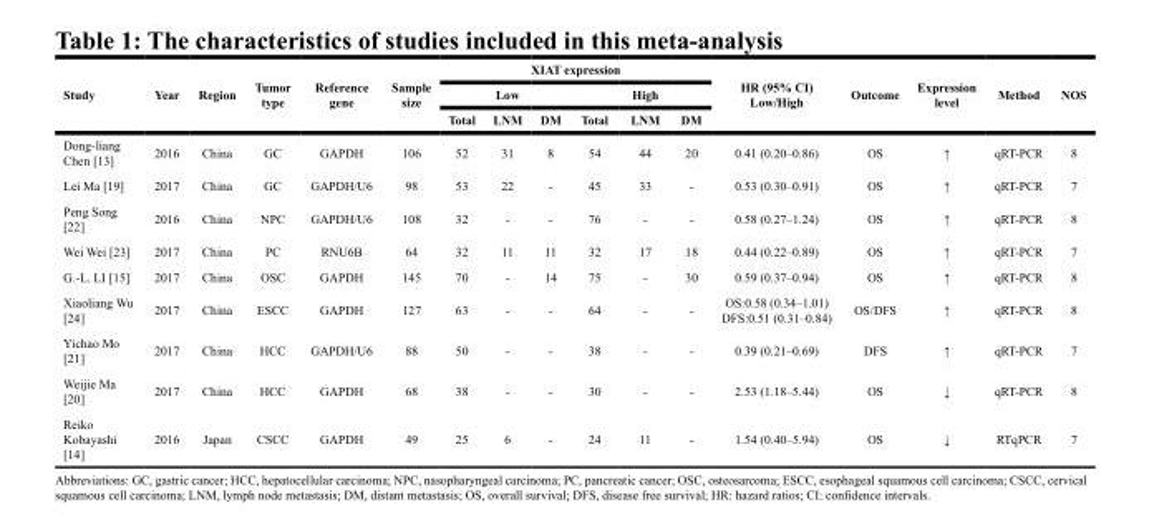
<table><thead><tr><td rowspan="3">Study</td><td rowspan="3">Year</td><td rowspan="3">Region</td><td rowspan="3">Tumor type</td><td rowspan="3">Reference gene</td><td rowspan="3">Sample size</td><td colspan="6">XIAT expression</td><td rowspan="3">HR (95% CI) Low/High</td><td rowspan="3">Outcome</td><td rowspan="3">Expression level</td><td rowspan="3">Method</td><td rowspan="3">NOS</td></tr><tr><td colspan="3">Low</td><td colspan="3">High</td></tr><tr><td>Total</td><td>LNM</td><td>DM</td><td>Total</td><td>LNM</td><td>DM</td></tr></thead><tbody><tr><td>Dong-liang Chen [13]</td><td>2016</td><td>China</td><td>GC</td><td>GAPDH</td><td>106</td><td>52</td><td>31</td><td>8</td><td>54</td><td>44</td><td>20</td><td>0.41 (0.20–0.86)</td><td>OS</td><td>↑</td><td>qRT-PCR</td><td>8</td></tr><tr><td>Lei Ma [19]</td><td>2017</td><td>China</td><td>GC</td><td>GAPDH/U6</td><td>98</td><td>53</td><td>22</td><td>-</td><td>45</td><td>33</td><td>-</td><td>0.53 (0.30–0.91)</td><td>OS</td><td>↑</td><td>qRT-PCR</td><td>7</td></tr><tr><td>Peng Song [22]</td><td>2016</td><td>China</td><td>NPC</td><td>GAPDH/U6</td><td>108</td><td>32</td><td>-</td><td>-</td><td>76</td><td>-</td><td>-</td><td>0.58 (0.27–1.24)</td><td>OS</td><td>↑</td><td>qRT-PCR</td><td>8</td></tr><tr><td>Wei Wei [23]</td><td>2017</td><td>China</td><td>PC</td><td>RNU6B</td><td>64</td><td>32</td><td>11</td><td>11</td><td>32</td><td>17</td><td>18</td><td>0.44 (0.22–0.89)</td><td>OS</td><td>↑</td><td>qRT-PCR</td><td>7</td></tr><tr><td>G.-L. LI [15]</td><td>2017</td><td>China</td><td>OSC</td><td>GAPDH</td><td>145</td><td>70</td><td>-</td><td>14</td><td>75</td><td>-</td><td>30</td><td>0.59 (0.37–0.94)</td><td>OS</td><td>↑</td><td>qRT-PCR</td><td>8</td></tr><tr><td>Xiaoliang Wu [24]</td><td>2017</td><td>China</td><td>ESCC</td><td>GAPDH</td><td>127</td><td>63</td><td>-</td><td>-</td><td>64</td><td>-</td><td>-</td><td>OS:0.58 (0.34–1.01) DFS:0.51 (0.31–0.84)</td><td>OS/DFS</td><td>↑</td><td>qRT-PCR</td><td>8</td></tr><tr><td>Yichao Mo [21]</td><td>2017</td><td>China</td><td>HCC</td><td>GAPDH/U6</td><td>88</td><td>50</td><td>-</td><td>-</td><td>38</td><td>-</td><td>-</td><td>0.39 (0.21–0.69)</td><td>DFS</td><td>↑</td><td>qRT-PCR</td><td>7</td></tr><tr><td>Weijie Ma [20]</td><td>2017</td><td>China</td><td>HCC</td><td>GAPDH</td><td>68</td><td>38</td><td>-</td><td>-</td><td>30</td><td>-</td><td>-</td><td>2.53 (1.18–5.44)</td><td>OS</td><td>↓</td><td>qRT-PCR</td><td>8</td></tr><tr><td>Reiko Kobayashi [14]</td><td>2016</td><td>Japan</td><td>CSCC</td><td>GAPDH</td><td>49</td><td>25</td><td>6</td><td>-</td><td>24</td><td>11</td><td>-</td><td>1.54 (0.40–5.94)</td><td>OS</td><td>↓</td><td>RTqPCR</td><td>7</td></tr></tbody></table>